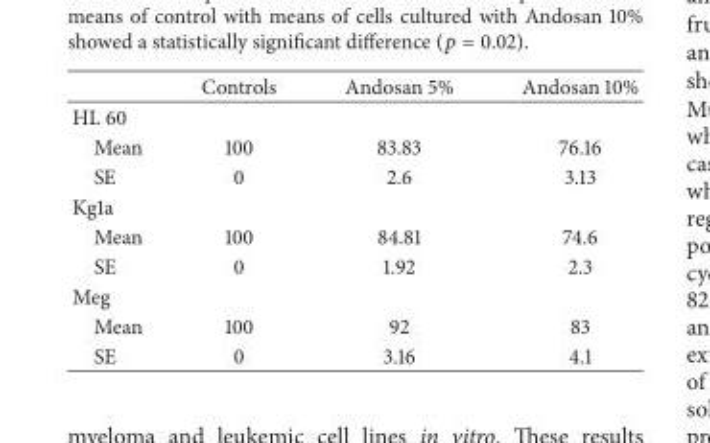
<table><thead><tr><td></td><td>Controls</td><td>Andosan 5%</td><td>Andosan 10%</td></tr></thead><tbody><tr><td colspan="4">HL 60</td></tr><tr><td>Mean</td><td>100</td><td>83.83</td><td>76.16</td></tr><tr><td>SE</td><td>0</td><td>2.6</td><td>3.13</td></tr><tr><td colspan="4">Kg1a</td></tr><tr><td>Mean</td><td>100</td><td>84.81</td><td>74.6</td></tr><tr><td>SE</td><td>0</td><td>1.92</td><td>2.3</td></tr><tr><td colspan="4">Meg</td></tr><tr><td>Mean</td><td>100</td><td>92</td><td>83</td></tr><tr><td>SE</td><td>0</td><td>3.16</td><td>4.1</td></tr></tbody></table>